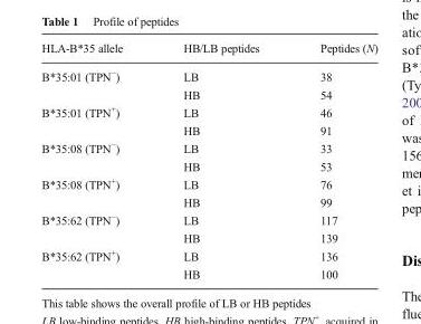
<table><thead><tr><td>HLA-B*35 allele</td><td>HB/LB peptides</td><td>Peptides (N)</td></tr></thead><tbody><tr><td rowspan="2">B*35:01 (TPN<sup>−</sup>)</td><td>LB</td><td>38</td></tr><tr><td>HB</td><td>54</td></tr><tr><td rowspan="2">B*35:01 (TPN<sup>+</sup>)</td><td>LB</td><td>46</td></tr><tr><td>HB</td><td>91</td></tr><tr><td rowspan="2">B*35:08 (TPN<sup>−</sup>)</td><td>LB</td><td>33</td></tr><tr><td>HB</td><td>53</td></tr><tr><td rowspan="2">B*35:08 (TPN<sup>+</sup>)</td><td>LB</td><td>76</td></tr><tr><td>HB</td><td>99</td></tr><tr><td rowspan="2">B*35:62 (TPN<sup>−</sup>)</td><td>LB</td><td>117</td></tr><tr><td>HB</td><td>139</td></tr><tr><td rowspan="2">B*35:62 (TPN<sup>+</sup>)</td><td>LB</td><td>136</td></tr><tr><td>HB</td><td>100</td></tr></tbody></table>